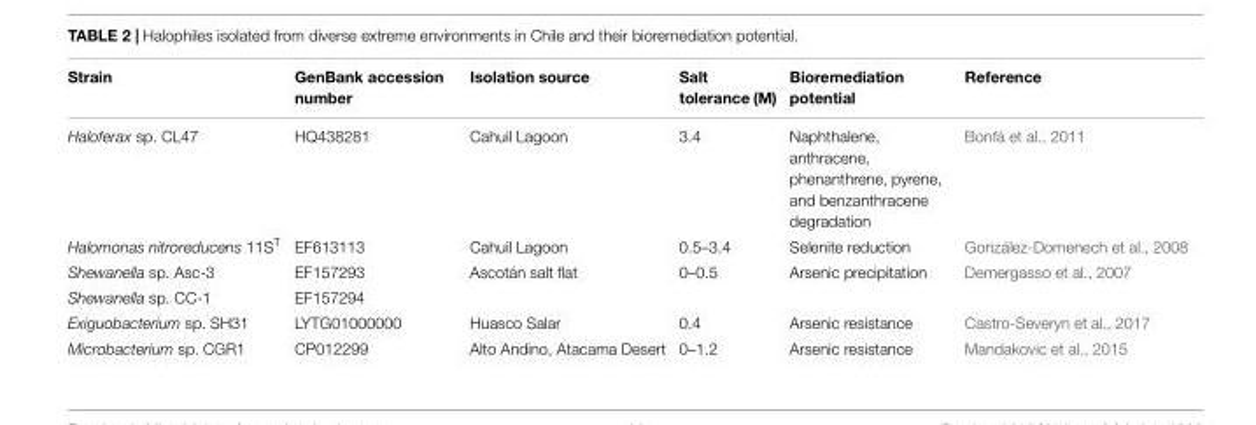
<table><thead><tr><td>Strain</td><td>GenBank accession number</td><td>Isolation source</td><td>Salt tolerance (M)</td><td>Bioremediation potential</td><td>Reference</td></tr></thead><tbody><tr><td>Haloferax sp. CL47</td><td>HQ438281</td><td>Cahuil Lagoon</td><td>3.4</td><td>Naphthalene, anthracene, phenanthrene, pyrene, and benzanthracene degradation</td><td>Bonfá et al., 2011</td></tr><tr><td>Halomonas nitroreducens 11S<sup>T</sup></td><td>EF613113</td><td>Cahuil Lagoon</td><td>0.5–3.4</td><td>Selenite reduction</td><td>González-Domenech et al., 2008</td></tr><tr><td>Shewanella sp. Asc-3</td><td>EF157293</td><td>Ascotán salt flat</td><td>0–0.5</td><td>Arsenic precipitation</td><td>Demergasso et al., 2007</td></tr><tr><td>Shewanella sp. CC-1</td><td>EF157294</td><td></td><td></td><td></td><td></td></tr><tr><td>Exiguobacterium sp. SH31</td><td>LYTG01000000</td><td>Huasco Salar</td><td>0.4</td><td>Arsenic resistance</td><td>Castro-Severyn et al., 2017</td></tr><tr><td>Microbacterium sp. CGR1</td><td>CP012299</td><td>Alto Andino, Atacama Desert</td><td>0–1.2</td><td>Arsenic resistance</td><td>Mandakovic et al., 2015</td></tr></tbody></table>